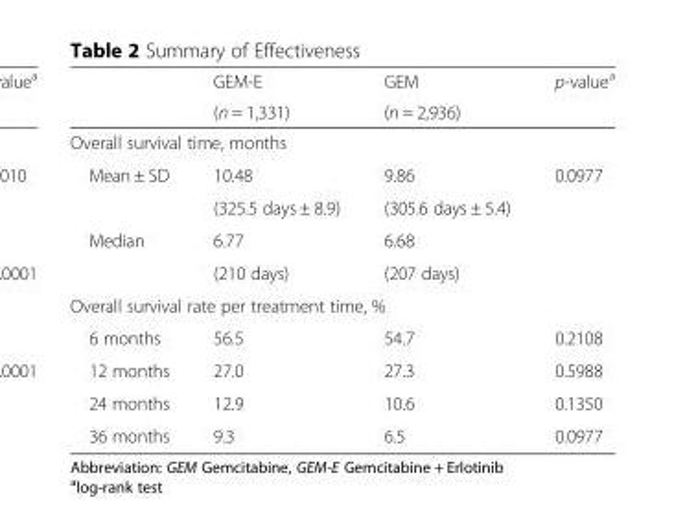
<table><thead><tr><td rowspan="2"></td><td rowspan="2">GEM-E (n = 1,331)</td><td rowspan="2">GEM (n = 2,936)</td><td rowspan="2">p-value<sup>a</sup></td></tr><tr></tr></thead><tbody><tr><td colspan="4">Overall survival time, months</td></tr><tr><td rowspan="2">Mean ± SD</td><td>10.48</td><td>9.86</td><td rowspan="2">0.0977</td></tr><tr><td>(325.5 days ± 8.9)</td><td>(305.6 days ± 5.4)</td></tr><tr><td rowspan="2">Median</td><td>6.77</td><td>6.68</td><td rowspan="2"></td></tr><tr><td>(210 days)</td><td>(207 days)</td></tr><tr><td colspan="4">Overall survival rate per treatment time, %</td></tr><tr><td>6 months</td><td>56.5</td><td>54.7</td><td>0.2108</td></tr><tr><td>12 months</td><td>27.0</td><td>27.3</td><td>0.5988</td></tr><tr><td>24 months</td><td>12.9</td><td>10.6</td><td>0.1350</td></tr><tr><td>36 months</td><td>9.3</td><td>6.5</td><td>0.0977</td></tr></tbody></table>